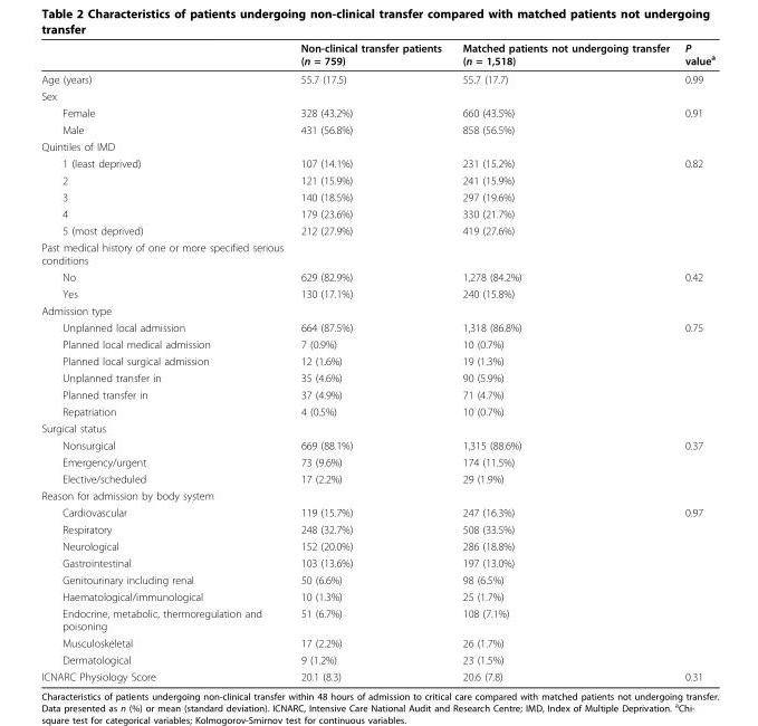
<table><thead><tr><td></td><td>Non-clinical transfer patients (n = 759)</td><td>Matched patients not undergoing transfer (n = 1,518)</td><td>P value<sup>a</sup></td></tr></thead><tbody><tr><td>Age (years)</td><td>55.7 (17.5)</td><td>55.7 (17.7)</td><td>0.99</td></tr><tr><td colspan="4">Sex</td></tr><tr><td>Female</td><td>328 (43.2%)</td><td>660 (43.5%)</td><td>0.91</td></tr><tr><td>Male</td><td>431 (56.8%)</td><td>858 (56.5%)</td><td></td></tr><tr><td colspan="4">Quintiles of IMD</td></tr><tr><td>1 (least deprived)</td><td>107 (14.1%)</td><td>231 (15.2%)</td><td>0.82</td></tr><tr><td>2</td><td>121 (15.9%)</td><td>241 (15.9%)</td><td></td></tr><tr><td>3</td><td>140 (18.5%)</td><td>297 (19.6%)</td><td></td></tr><tr><td>4</td><td>179 (23.6%)</td><td>330 (21.7%)</td><td></td></tr><tr><td>5 (most deprived)</td><td>212 (27.9%)</td><td>419 (27.6%)</td><td></td></tr><tr><td colspan="4">Past medical history of one or more specified serious conditions</td></tr><tr><td>No</td><td>629 (82.9%)</td><td>1,278 (84.2%)</td><td>0.42</td></tr><tr><td>Yes</td><td>130 (17.1%)</td><td>240 (15.8%)</td><td></td></tr><tr><td colspan="4">Admission type</td></tr><tr><td>Unplanned local admission</td><td>664 (87.5%)</td><td>1,318 (86.8%)</td><td>0.75</td></tr><tr><td>Planned local medical admission</td><td>7 (0.9%)</td><td>10 (0.7%)</td><td></td></tr><tr><td>Planned local surgical admission</td><td>12 (1.6%)</td><td>19 (1.3%)</td><td></td></tr><tr><td>Unplanned transfer in</td><td>35 (4.6%)</td><td>90 (5.9%)</td><td></td></tr><tr><td>Planned transfer in</td><td>37 (4.9%)</td><td>71 (4.7%)</td><td></td></tr><tr><td>Repatriation</td><td>4 (0.5%)</td><td>10 (0.7%)</td><td></td></tr><tr><td colspan="4">Surgical status</td></tr><tr><td>Nonsurgical</td><td>669 (88.1%)</td><td>1,315 (88.6%)</td><td>0.37</td></tr><tr><td>Emergency/urgent</td><td>73 (9.6%)</td><td>174 (11.5%)</td><td></td></tr><tr><td>Elective/scheduled</td><td>17 (2.2%)</td><td>29 (1.9%)</td><td></td></tr><tr><td colspan="4">Reason for admission by body system</td></tr><tr><td>Cardiovascular</td><td>119 (15.7%)</td><td>247 (16.3%)</td><td>0.97</td></tr><tr><td>Respiratory</td><td>248 (32.7%)</td><td>508 (33.5%)</td><td></td></tr><tr><td>Neurological</td><td>152 (20.0%)</td><td>286 (18.8%)</td><td></td></tr><tr><td>Gastrointestinal</td><td>103 (13.6%)</td><td>197 (13.0%)</td><td></td></tr><tr><td>Genitourinary including renal</td><td>50 (6.6%)</td><td>98 (6.5%)</td><td></td></tr><tr><td>Haematological/immunological</td><td>10 (1.3%)</td><td>25 (1.7%)</td><td></td></tr><tr><td>Endocrine, metabolic, thermoregulation and poisoning</td><td>51 (6.7%)</td><td>108 (7.1%)</td><td></td></tr><tr><td>Musculoskeletal</td><td>17 (2.2%)</td><td>26 (1.7%)</td><td></td></tr><tr><td>Dermatological</td><td>9 (1.2%)</td><td>23 (1.5%)</td><td></td></tr><tr><td>ICNARC Physiology Score</td><td>20.1 (8.3)</td><td>20.6 (7.8)</td><td>0.31</td></tr></tbody></table>